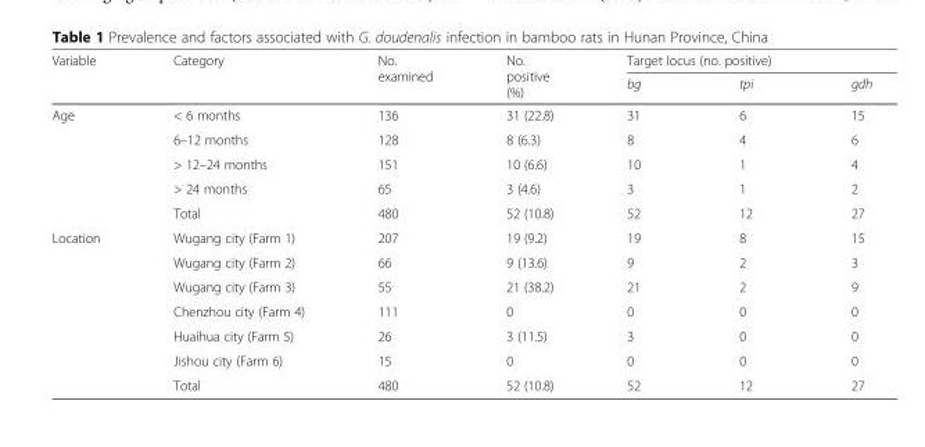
<table><thead><tr><td rowspan="2">Variable</td><td rowspan="2">Category</td><td rowspan="2">No. examined</td><td rowspan="2">No. positive (%)</td><td colspan="3">Target locus (no. positive)</td></tr><tr><td>bg</td><td>tpi</td><td>gdh</td></tr></thead><tbody><tr><td rowspan="5">Age</td><td>&lt; 6 months</td><td>136</td><td>31 (22.8)</td><td>31</td><td>6</td><td>15</td></tr><tr><td>6–12 months</td><td>128</td><td>8 (6.3)</td><td>8</td><td>4</td><td>6</td></tr><tr><td>&gt; 12–24 months</td><td>151</td><td>10 (6.6)</td><td>10</td><td>1</td><td>4</td></tr><tr><td>&gt; 24 months</td><td>65</td><td>3 (4.6)</td><td>3</td><td>1</td><td>2</td></tr><tr><td>Total</td><td>480</td><td>52 (10.8)</td><td>52</td><td>12</td><td>27</td></tr><tr><td rowspan="7">Location</td><td>Wugang city (Farm 1)</td><td>207</td><td>19 (9.2)</td><td>19</td><td>8</td><td>15</td></tr><tr><td>Wugang city (Farm 2)</td><td>66</td><td>9 (13.6)</td><td>9</td><td>2</td><td>3</td></tr><tr><td>Wugang city (Farm 3)</td><td>55</td><td>21 (38.2)</td><td>21</td><td>2</td><td>9</td></tr><tr><td>Chenzhou city (Farm 4)</td><td>111</td><td>0</td><td>0</td><td>0</td><td>0</td></tr><tr><td>Huaihua city (Farm 5)</td><td>26</td><td>3 (11.5)</td><td>3</td><td>0</td><td>0</td></tr><tr><td>Jishou city (Farm 6)</td><td>15</td><td>0</td><td>0</td><td>0</td><td>0</td></tr><tr><td>Total</td><td>480</td><td>52 (10.8)</td><td>52</td><td>12</td><td>27</td></tr></tbody></table>